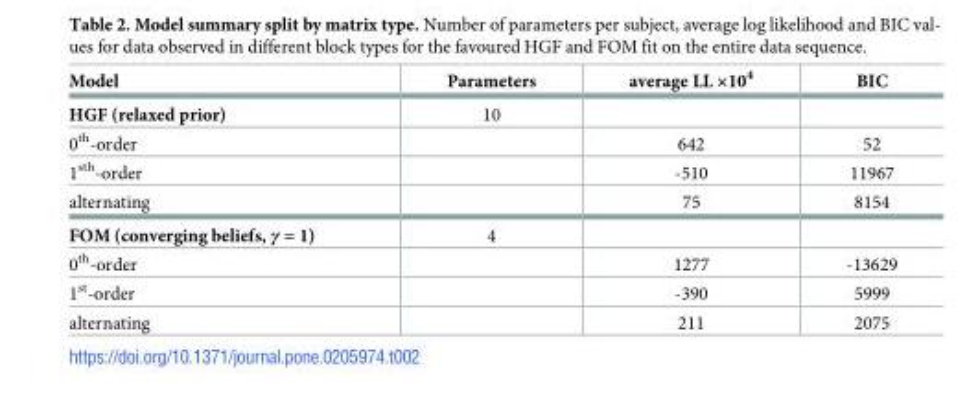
<table><thead><tr><td>Model</td><td>Parameters</td><td>average LL ×10<sup>4</sup></td><td>BIC</td></tr></thead><tbody><tr><td>HGF (relaxed prior)</td><td>10</td><td></td><td></td></tr><tr><td>0<sup>th</sup>-order</td><td></td><td>642</td><td>52</td></tr><tr><td>1<sup>sth</sup>-order</td><td></td><td>-510</td><td>11967</td></tr><tr><td>alternating</td><td></td><td>75</td><td>8154</td></tr><tr><td>FOM (converging beliefs, γ = 1)</td><td>4</td><td></td><td></td></tr><tr><td>0<sup>th</sup>-order</td><td></td><td>1277</td><td>-13629</td></tr><tr><td>1<sup>st</sup>-order</td><td></td><td>-390</td><td>5999</td></tr><tr><td>alternating</td><td></td><td>211</td><td>2075</td></tr></tbody></table>